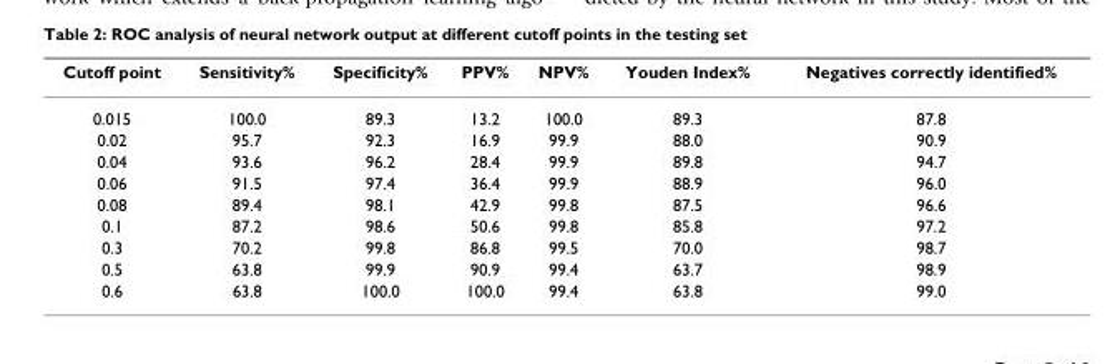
<table><thead><tr><td>Cutoff point</td><td>Sensitivity%</td><td>Specificity%</td><td>PPV%</td><td>NPV%</td><td>Youden Index%</td><td>Negatives correctly identified%</td></tr></thead><tbody><tr><td>0.015</td><td>100.0</td><td>89.3</td><td>13.2</td><td>100.0</td><td>89.3</td><td>87.8</td></tr><tr><td>0.02</td><td>95.7</td><td>92.3</td><td>16.9</td><td>99.9</td><td>88.0</td><td>90.9</td></tr><tr><td>0.04</td><td>93.6</td><td>96.2</td><td>28.4</td><td>99.9</td><td>89.8</td><td>94.7</td></tr><tr><td>0.06</td><td>91.5</td><td>97.4</td><td>36.4</td><td>99.9</td><td>88.9</td><td>96.0</td></tr><tr><td>0.08</td><td>89.4</td><td>98.1</td><td>42.9</td><td>99.8</td><td>87.5</td><td>96.6</td></tr><tr><td>0.1</td><td>87.2</td><td>98.6</td><td>50.6</td><td>99.8</td><td>85.8</td><td>97.2</td></tr><tr><td>0.3</td><td>70.2</td><td>99.8</td><td>86.8</td><td>99.5</td><td>70.0</td><td>98.7</td></tr><tr><td>0.5</td><td>63.8</td><td>99.9</td><td>90.9</td><td>99.4</td><td>63.7</td><td>98.9</td></tr><tr><td>0.6</td><td>63.8</td><td>100.0</td><td>100.0</td><td>99.4</td><td>63.8</td><td>99.0</td></tr></tbody></table>